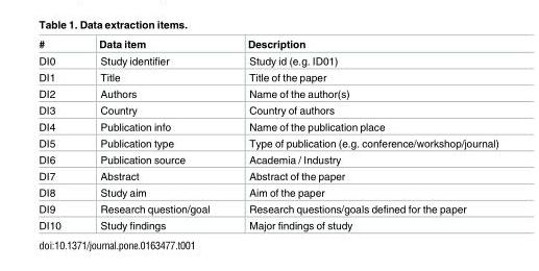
<table><thead><tr><td>#</td><td>Data item</td><td>Description</td></tr></thead><tbody><tr><td>DI0</td><td>Study identifier</td><td>Study id (e.g. ID01)</td></tr><tr><td>DI1</td><td>Title</td><td>Title of the paper</td></tr><tr><td>DI2</td><td>Authors</td><td>Name of the author(s)</td></tr><tr><td>DI3</td><td>Country</td><td>Country of authors</td></tr><tr><td>DI4</td><td>Publication info</td><td>Name of the publication place</td></tr><tr><td>DI5</td><td>Publication type</td><td>Type of publication (e.g. conference/workshop/journal)</td></tr><tr><td>DI6</td><td>Publication source</td><td>Academia / Industry</td></tr><tr><td>DI7</td><td>Abstract</td><td>Abstract of the paper</td></tr><tr><td>DI8</td><td>Study aim</td><td>Aim of the paper</td></tr><tr><td>DI9</td><td>Research question/goal</td><td>Research questions/goals defined for the paper</td></tr><tr><td>DI10</td><td>Study findings</td><td>Major findings of study</td></tr></tbody></table>